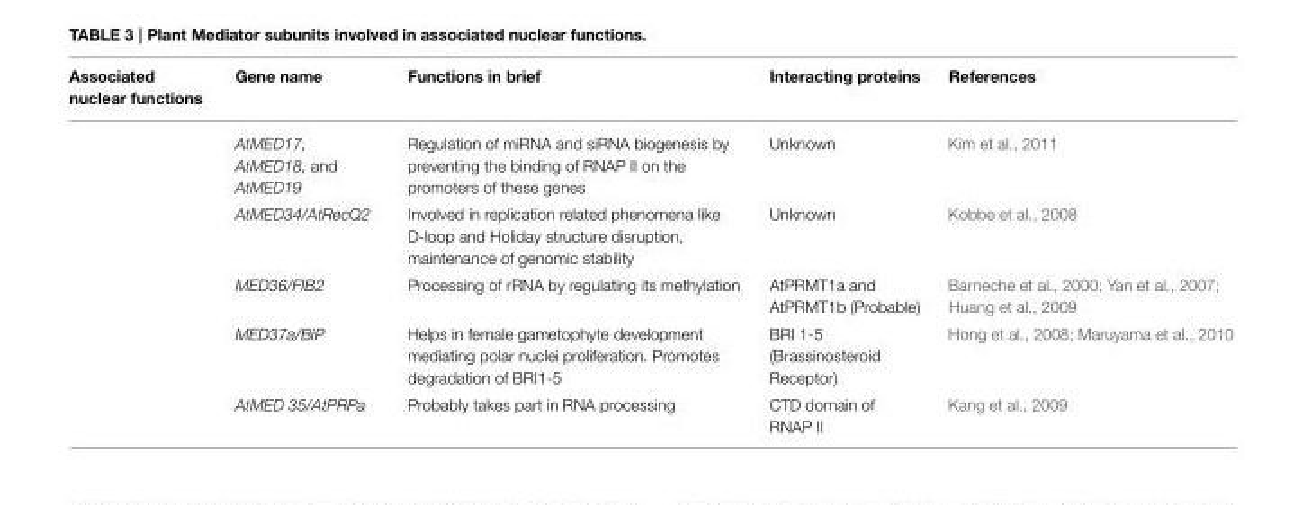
<table><thead><tr><td>Associated nuclear functions</td><td>Gene name</td><td>Functions in brief</td><td>Interacting proteins</td><td>References</td></tr></thead><tbody><tr><td></td><td>AtMED17, AtMED18, and AtMED19</td><td>Regulation of miRNA and siRNA biogenesis by preventing the binding of RNAP II on the promoters of these genes</td><td>Unknown</td><td>Kim et al., 2011</td></tr><tr><td></td><td>AtMED34/AtRecQ2</td><td>Involved in replication related phenomena like D-loop and Holiday structure disruption, maintenance of genomic stability</td><td>Unknown</td><td>Kobbe et al., 2008</td></tr><tr><td></td><td>MED36/FIB2</td><td>Processing of rRNA by regulating its methylation</td><td>AtPRMT1a and AtPRMT1b (Probable)</td><td>Barneche et al., 2000; Yan et al., 2007; Huang et al., 2009</td></tr><tr><td></td><td>MED37a/BiP</td><td>Helps in female gametophyte development mediating polar nuclei proliferation. Promotes degradation of BRI1-5</td><td>BRI 1-5 (Brassinosteroid Receptor)</td><td>Hong et al., 2008; Maruyama et al., 2010</td></tr><tr><td></td><td>AtMED 35/AtPRPa</td><td>Probably takes part in RNA processing</td><td>CTD domain of RNAP II</td><td>Kang et al., 2009</td></tr></tbody></table>